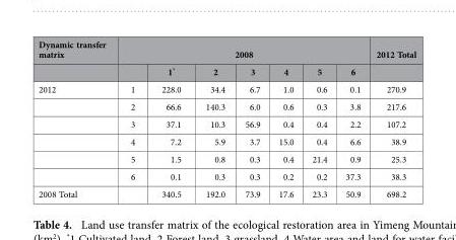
<table><thead><tr><td rowspan="2">Dynamic transfer matrix</td><td colspan="7">2008</td><td rowspan="2">2012 Total</td></tr><tr><td></td><td>1*</td><td>2</td><td>3</td><td>4</td><td>5</td><td>6</td></tr></thead><tbody><tr><td rowspan="6">2012</td><td>1</td><td>228.0</td><td>34.4</td><td>6.7</td><td>1.0</td><td>0.6</td><td>0.1</td><td>270.9</td></tr><tr><td>2</td><td>66.6</td><td>140.3</td><td>6.0</td><td>0.6</td><td>0.3</td><td>3.8</td><td>217.6</td></tr><tr><td>3</td><td>37.1</td><td>10.3</td><td>56.9</td><td>0.4</td><td>0.4</td><td>2.2</td><td>107.2</td></tr><tr><td>4</td><td>7.2</td><td>5.9</td><td>3.7</td><td>15.0</td><td>0.4</td><td>6.6</td><td>38.9</td></tr><tr><td>5</td><td>1.5</td><td>0.8</td><td>0.3</td><td>0.4</td><td>21.4</td><td>0.9</td><td>25.3</td></tr><tr><td>6</td><td>0.1</td><td>0.3</td><td>0.3</td><td>0.2</td><td>0.2</td><td>37.3</td><td>38.3</td></tr><tr><td>2008 Total</td><td></td><td>340.5</td><td>192.0</td><td>73.9</td><td>17.6</td><td>23.3</td><td>50.9</td><td>698.2</td></tr></tbody></table>